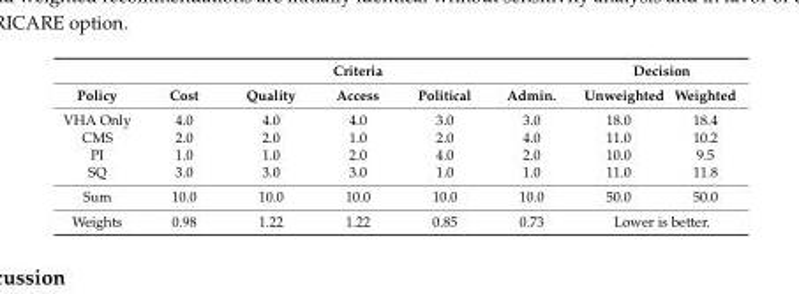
<table><thead><tr><td rowspan="2">Policy</td><td colspan="5">Criteria</td><td colspan="2">Decision</td></tr><tr><td>Cost</td><td>Quality</td><td>Access</td><td>Political</td><td>Admin.</td><td>Unweighted</td><td>Weighted</td></tr></thead><tbody><tr><td>VHA Only</td><td>4.0</td><td>4.0</td><td>4.0</td><td>3.0</td><td>3.0</td><td>18.0</td><td>18.4</td></tr><tr><td>CMS</td><td>2.0</td><td>2.0</td><td>1.0</td><td>2.0</td><td>4.0</td><td>11.0</td><td>10.2</td></tr><tr><td>PI</td><td>1.0</td><td>1.0</td><td>2.0</td><td>4.0</td><td>2.0</td><td>10.0</td><td>9.5</td></tr><tr><td>SQ</td><td>3.0</td><td>3.0</td><td>3.0</td><td>1.0</td><td>1.0</td><td>11.0</td><td>11.8</td></tr><tr><td>Sum</td><td>10.0</td><td>10.0</td><td>10.0</td><td>10.0</td><td>10.0</td><td>50.0</td><td>50.0</td></tr><tr><td>Weights</td><td>0.98</td><td>1.22</td><td>1.22</td><td>0.85</td><td>0.73</td><td colspan="2">Lower is better.</td></tr></tbody></table>